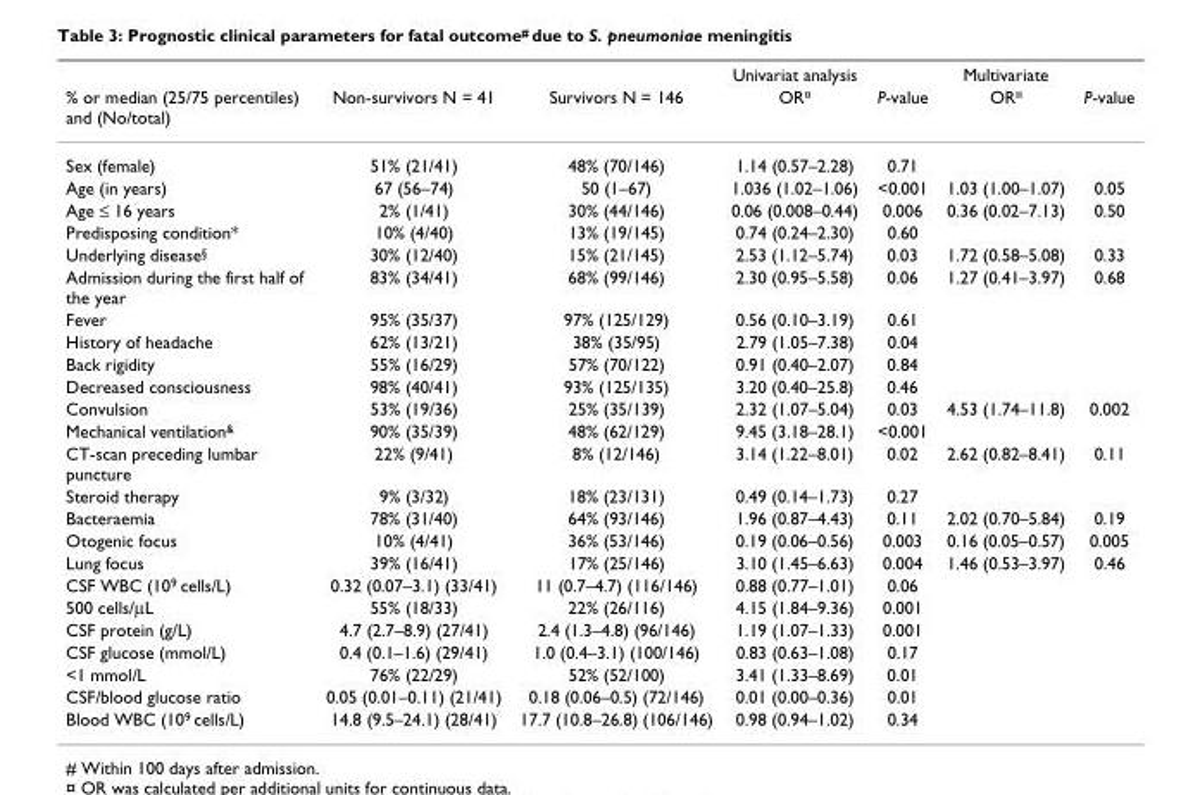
<table><thead><tr><td rowspan="2">% or median (25/75 percentiles) and (No/total)</td><td rowspan="2">Non-survivors N = 41</td><td rowspan="2">Survivors N = 146</td><td rowspan="2">Univariat analysis OR<sup>¤</sup></td><td rowspan="2">P-value</td><td rowspan="2">Multivariate OR<sup>¤</sup></td><td rowspan="2">P-value</td></tr><tr></tr></thead><tbody><tr><td>Sex (female)</td><td>51% (21/41)</td><td>48% (70/146)</td><td>1.14 (0.57–2.28)</td><td>0.71</td><td></td><td></td></tr><tr><td>Age (in years)</td><td>67 (56–74)</td><td>50 (1–67)</td><td>1.036 (1.02–1.06)</td><td>&lt;0.001</td><td>1.03 (1.00–1.07)</td><td>0.05</td></tr><tr><td>Age ≤ 16 years</td><td>2% (1/41)</td><td>30% (44/146)</td><td>0.06 (0.008–0.44)</td><td>0.006</td><td>0.36 (0.02–7.13)</td><td>0.50</td></tr><tr><td>Predisposing condition*</td><td>10% (4/40)</td><td>13% (19/145)</td><td>0.74 (0.24–2.30)</td><td>0.60</td><td></td><td></td></tr><tr><td>Underlying disease<sup>§</sup></td><td>30% (12/40)</td><td>15% (21/145)</td><td>2.53 (1.12–5.74)</td><td>0.03</td><td>1.72 (0.58–5.08)</td><td>0.33</td></tr><tr><td>Admission during the first half of the year</td><td>83% (34/41)</td><td>68% (99/146)</td><td>2.30 (0.95–5.58)</td><td>0.06</td><td>1.27 (0.41–3.97)</td><td>0.68</td></tr><tr><td>Fever</td><td>95% (35/37)</td><td>97% (125/129)</td><td>0.56 (0.10–3.19)</td><td>0.61</td><td></td><td></td></tr><tr><td>History of headache</td><td>62% (13/21)</td><td>38% (35/95)</td><td>2.79 (1.05–7.38)</td><td>0.04</td><td></td><td></td></tr><tr><td>Back rigidity</td><td>55% (16/29)</td><td>57% (70/122)</td><td>0.91 (0.40–2.07)</td><td>0.84</td><td></td><td></td></tr><tr><td>Decreased consciousness</td><td>98% (40/41)</td><td>93% (125/135)</td><td>3.20 (0.40–25.8)</td><td>0.46</td><td></td><td></td></tr><tr><td>Convulsion</td><td>53% (19/36)</td><td>25% (35/139)</td><td>2.32 (1.07–5.04)</td><td>0.03</td><td>4.53 (1.74–11.8)</td><td>0.002</td></tr><tr><td>Mechanical ventilation<sup>&amp;</sup></td><td>90% (35/39)</td><td>48% (62/129)</td><td>9.45 (3.18–28.1)</td><td>&lt;0.001</td><td></td><td></td></tr><tr><td>CT-scan preceding lumbar puncture</td><td>22% (9/41)</td><td>8% (12/146)</td><td>3.14 (1.22–8.01)</td><td>0.02</td><td>2.62 (0.82–8.41)</td><td>0.11</td></tr><tr><td>Steroid therapy</td><td>9% (3/32)</td><td>18% (23/131)</td><td>0.49 (0.14–1.73)</td><td>0.27</td><td></td><td></td></tr><tr><td>Bacteraemia</td><td>78% (31/40)</td><td>64% (93/146)</td><td>1.96 (0.87–4.43)</td><td>0.11</td><td>2.02 (0.70–5.84)</td><td>0.19</td></tr><tr><td>Otogenic focus</td><td>10% (4/41)</td><td>36% (53/146)</td><td>0.19 (0.06–0.56)</td><td>0.003</td><td>0.16 (0.05–0.57)</td><td>0.005</td></tr><tr><td>Lung focus</td><td>39% (16/41)</td><td>17% (25/146)</td><td>3.10 (1.45–6.63)</td><td>0.004</td><td>1.46 (0.53–3.97)</td><td>0.46</td></tr><tr><td>CSF WBC (10<sup>9</sup> cells/L)</td><td>0.32 (0.07–3.1) (33/41)</td><td>11 (0.7–4.7) (116/146)</td><td>0.88 (0.77–1.01)</td><td>0.06</td><td></td><td></td></tr><tr><td>500 cells/µL</td><td>55% (18/33)</td><td>22% (26/116)</td><td>4.15 (1.84–9.36)</td><td>0.001</td><td></td><td></td></tr><tr><td>CSF protein (g/L)</td><td>4.7 (2.7–8.9) (27/41)</td><td>2.4 (1.3–4.8) (96/146)</td><td>1.19 (1.07–1.33)</td><td>0.001</td><td></td><td></td></tr><tr><td>CSF glucose (mmol/L)</td><td>0.4 (0.1–1.6) (29/41)</td><td>1.0 (0.4–3.1) (100/146)</td><td>0.83 (0.63–1.08)</td><td>0.17</td><td></td><td></td></tr><tr><td>&lt;1 mmol/L</td><td>76% (22/29)</td><td>52% (52/100)</td><td>3.41 (1.33–8.69)</td><td>0.01</td><td></td><td></td></tr><tr><td>CSF/blood glucose ratio</td><td>0.05 (0.01–0.11) (21/41)</td><td>0.18 (0.06–0.5) (72/146)</td><td>0.01 (0.00–0.36)</td><td>0.01</td><td></td><td></td></tr><tr><td>Blood WBC (10<sup>9</sup> cells/L)</td><td>14.8 (9.5–24.1) (28/41)</td><td>17.7 (10.8–26.8) (106/146)</td><td>0.98 (0.94–1.02)</td><td>0.34</td><td></td><td></td></tr></tbody></table>